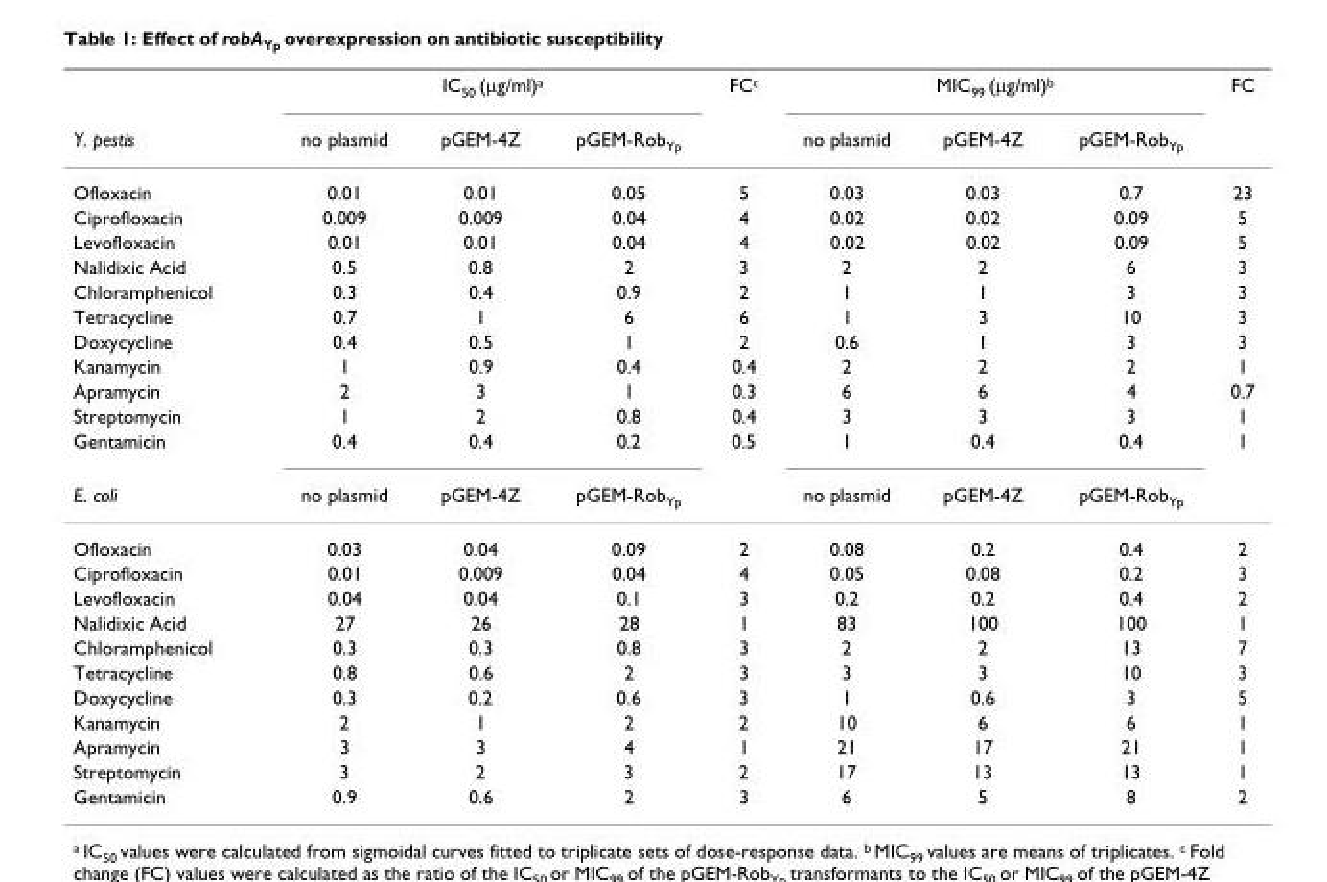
<table><thead><tr><td rowspan="2">Y. pestis</td><td colspan="3">IC<sub>50</sub> (μg/ml)<sup>a</sup></td><td rowspan="2">FC<sup>c</sup></td><td colspan="3">MIC<sub>99</sub> (μg/ml)<sup>b</sup></td><td rowspan="2">FC</td></tr><tr><td>no plasmid</td><td>pGEM-4Z</td><td>pGEM-Rob<sub>Yp</sub></td><td>no plasmid</td><td>pGEM-4Z</td><td>pGEM-Rob<sub>Yp</sub></td></tr></thead><tbody><tr><td>Ofloxacin</td><td>0.01</td><td>0.01</td><td>0.05</td><td>5</td><td>0.03</td><td>0.03</td><td>0.7</td><td>23</td></tr><tr><td>Ciprofloxacin</td><td>0.009</td><td>0.009</td><td>0.04</td><td>4</td><td>0.02</td><td>0.02</td><td>0.09</td><td>5</td></tr><tr><td>Levofloxacin</td><td>0.01</td><td>0.01</td><td>0.04</td><td>4</td><td>0.02</td><td>0.02</td><td>0.09</td><td>5</td></tr><tr><td>Nalidixic Acid</td><td>0.5</td><td>0.8</td><td>2</td><td>3</td><td>2</td><td>2</td><td>6</td><td>3</td></tr><tr><td>Chloramphenicol</td><td>0.3</td><td>0.4</td><td>0.9</td><td>2</td><td>1</td><td>1</td><td>3</td><td>3</td></tr><tr><td>Tetracycline</td><td>0.7</td><td>1</td><td>6</td><td>6</td><td>1</td><td>3</td><td>10</td><td>3</td></tr><tr><td>Doxycycline</td><td>0.4</td><td>0.5</td><td>1</td><td>2</td><td>0.6</td><td>1</td><td>3</td><td>3</td></tr><tr><td>Kanamycin</td><td>1</td><td>0.9</td><td>0.4</td><td>0.4</td><td>2</td><td>2</td><td>2</td><td>1</td></tr><tr><td>Apramycin</td><td>2</td><td>3</td><td>1</td><td>0.3</td><td>6</td><td>6</td><td>4</td><td>0.7</td></tr><tr><td>Streptomycin</td><td>1</td><td>2</td><td>0.8</td><td>0.4</td><td>3</td><td>3</td><td>3</td><td>1</td></tr><tr><td>Gentamicin</td><td>0.4</td><td>0.4</td><td>0.2</td><td>0.5</td><td>1</td><td>0.4</td><td>0.4</td><td>1</td></tr><tr><td>E. coli</td><td>no plasmid</td><td>pGEM-4Z</td><td>pGEM-Rob<sub>Yp</sub></td><td></td><td>no plasmid</td><td>pGEM-4Z</td><td>pGEM-Rob<sub>Yp</sub></td><td></td></tr><tr><td>Ofloxacin</td><td>0.03</td><td>0.04</td><td>0.09</td><td>2</td><td>0.08</td><td>0.2</td><td>0.4</td><td>2</td></tr><tr><td>Ciprofloxacin</td><td>0.01</td><td>0.009</td><td>0.04</td><td>4</td><td>0.05</td><td>0.08</td><td>0.2</td><td>3</td></tr><tr><td>Levofloxacin</td><td>0.04</td><td>0.04</td><td>0.1</td><td>3</td><td>0.2</td><td>0.2</td><td>0.4</td><td>2</td></tr><tr><td>Nalidixic Acid</td><td>27</td><td>26</td><td>28</td><td>1</td><td>83</td><td>100</td><td>100</td><td>1</td></tr><tr><td>Chloramphenicol</td><td>0.3</td><td>0.3</td><td>0.8</td><td>3</td><td>2</td><td>2</td><td>13</td><td>7</td></tr><tr><td>Tetracycline</td><td>0.8</td><td>0.6</td><td>2</td><td>3</td><td>3</td><td>3</td><td>10</td><td>3</td></tr><tr><td>Doxycycline</td><td>0.3</td><td>0.2</td><td>0.6</td><td>3</td><td>1</td><td>0.6</td><td>3</td><td>5</td></tr><tr><td>Kanamycin</td><td>2</td><td>1</td><td>2</td><td>2</td><td>10</td><td>6</td><td>6</td><td>1</td></tr><tr><td>Apramycin</td><td>3</td><td>3</td><td>4</td><td>1</td><td>21</td><td>17</td><td>21</td><td>1</td></tr><tr><td>Streptomycin</td><td>3</td><td>2</td><td>3</td><td>2</td><td>17</td><td>13</td><td>13</td><td>1</td></tr><tr><td>Gentamicin</td><td>0.9</td><td>0.6</td><td>2</td><td>3</td><td>6</td><td>5</td><td>8</td><td>2</td></tr></tbody></table>